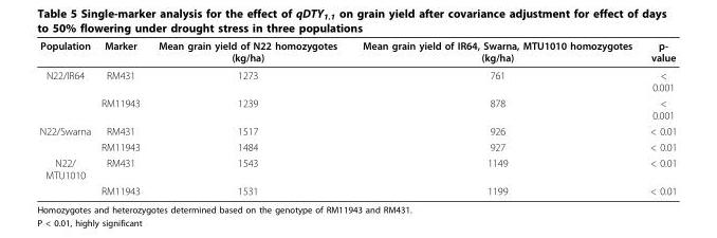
<table><thead><tr><td>Population</td><td>Marker</td><td>Mean grain yield of N22 homozygotes (kg/ha)</td><td>Mean grain yield of IR64, Swarna, MTU1010 homozygotes (kg/ha)</td><td>p- value</td></tr></thead><tbody><tr><td rowspan="2">N22/IR64</td><td>RM431</td><td>1273</td><td>761</td><td>&lt; 0.001</td></tr><tr><td>RM11943</td><td>1239</td><td>878</td><td>&lt; 0.001</td></tr><tr><td rowspan="2">N22/Swarna</td><td>RM431</td><td>1517</td><td>926</td><td>&lt; 0.01</td></tr><tr><td>RM11943</td><td>1484</td><td>927</td><td>&lt; 0.01</td></tr><tr><td rowspan="2">N22/ MTU1010</td><td>RM431</td><td>1543</td><td>1149</td><td>&lt; 0.01</td></tr><tr><td>RM11943</td><td>1531</td><td>1199</td><td>&lt; 0.01</td></tr></tbody></table>